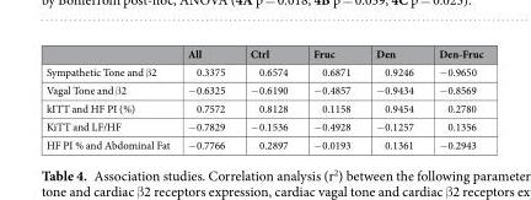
<table><thead><tr><td></td><td>All</td><td>Ctrl</td><td>Fruc</td><td>Den</td><td>Den-Fruc</td></tr></thead><tbody><tr><td>Sympathetic Tone and β2</td><td>0.3375</td><td>0.6574</td><td>0.6871</td><td>0.9246</td><td>−0.9650</td></tr><tr><td>Vagal Tone and β2</td><td>−0.6325</td><td>−0.6190</td><td>−0.4857</td><td>−0.9434</td><td>−0.8569</td></tr><tr><td>kITT and HF PI (%)</td><td>0.7572</td><td>0.8128</td><td>0.1158</td><td>0.9454</td><td>0.2780</td></tr><tr><td>KiTT and LF/HF</td><td>−0.7829</td><td>−0.1536</td><td>−0.4928</td><td>−0.1257</td><td>0.1356</td></tr><tr><td>HF PI % and Abdominal Fat</td><td>−0.7766</td><td>0.2897</td><td>−0.0193</td><td>0.1361</td><td>−0.2943</td></tr></tbody></table>